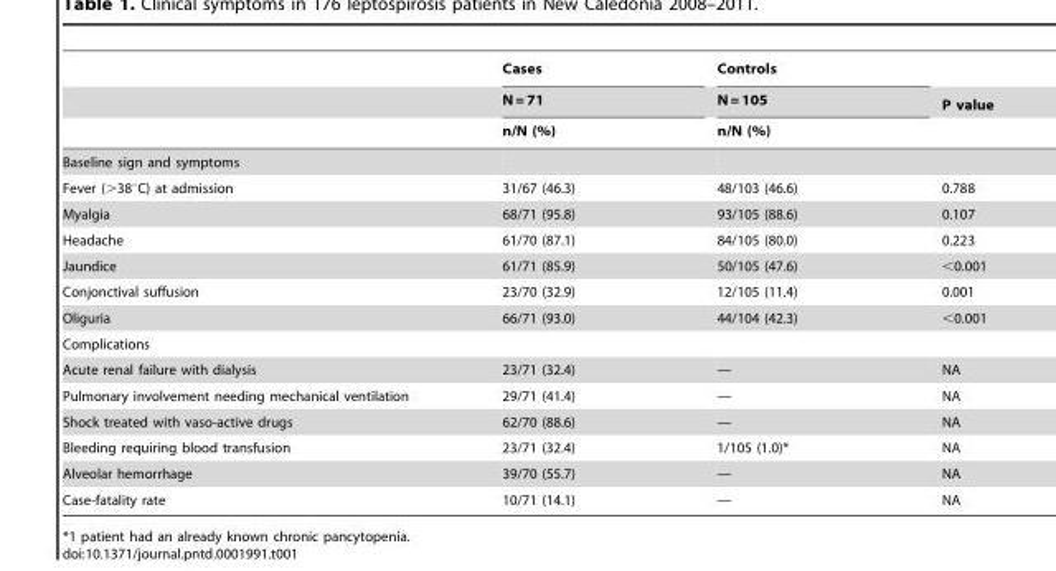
<table><thead><tr><td rowspan="3"></td><td rowspan="3">Cases N = 71 n/N (%)</td><td rowspan="3">Controls N = 105 n/N (%)</td><td rowspan="3">P value</td></tr><tr></tr><tr></tr></thead><tbody><tr><td colspan="4">Baseline sign and symptoms</td></tr><tr><td>Fever (&gt;38°C) at admission</td><td>31/67 (46.3)</td><td>48/103 (46.6)</td><td>0.788</td></tr><tr><td>Myalgia</td><td>68/71 (95.8)</td><td>93/105 (88.6)</td><td>0.107</td></tr><tr><td>Headache</td><td>61/70 (87.1)</td><td>84/105 (80.0)</td><td>0.223</td></tr><tr><td>Jaundice</td><td>61/71 (85.9)</td><td>50/105 (47.6)</td><td>&lt;0.001</td></tr><tr><td>Conjonctival suffusion</td><td>23/70 (32.9)</td><td>12/105 (11.4)</td><td>0.001</td></tr><tr><td>Oliguria</td><td>66/71 (93.0)</td><td>44/104 (42.3)</td><td>&lt;0.001</td></tr><tr><td colspan="4">Complications</td></tr><tr><td>Acute renal failure with dialysis</td><td>23/71 (32.4)</td><td>—</td><td>NA</td></tr><tr><td>Pulmonary involvement needing mechanical ventilation</td><td>29/71 (41.4)</td><td>—</td><td>NA</td></tr><tr><td>Shock treated with vaso-active drugs</td><td>62/70 (88.6)</td><td>—</td><td>NA</td></tr><tr><td>Bleeding requiring blood transfusion</td><td>23/71 (32.4)</td><td>1/105 (1.0)*</td><td>NA</td></tr><tr><td>Alveolar hemorrhage</td><td>39/70 (55.7)</td><td>—</td><td>NA</td></tr><tr><td>Case-fatality rate</td><td>10/71 (14.1)</td><td>—</td><td>NA</td></tr></tbody></table>